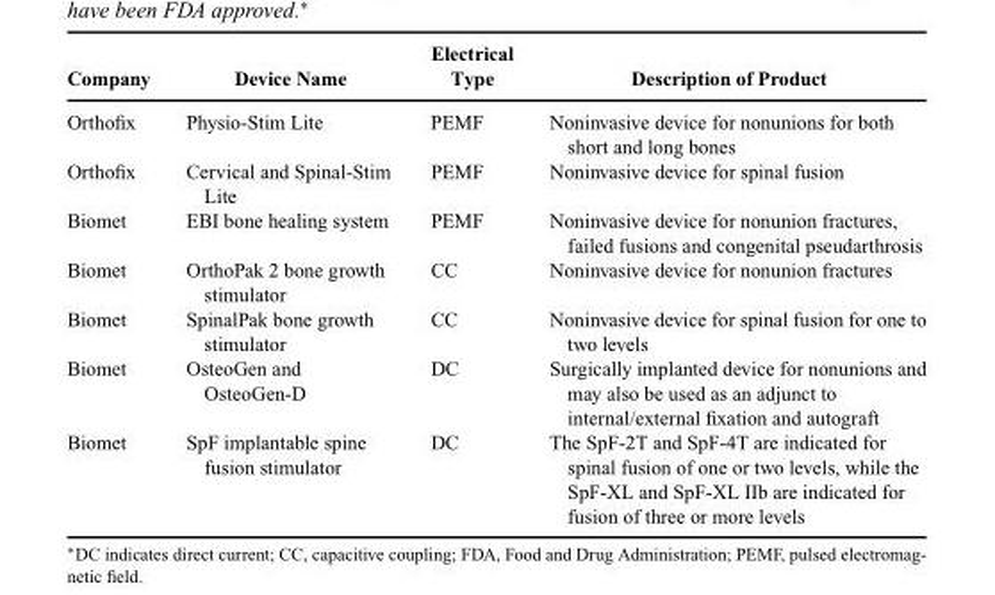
<table><thead><tr><td>Company</td><td>Device Name</td><td>Type</td><td>Description of Product</td></tr></thead><tbody><tr><td>Orthofix</td><td>Physio-Stim Lite</td><td>PEMF</td><td>Noninvasive device for nonunions for both short and long bones</td></tr><tr><td>Orthofix</td><td>Cervical and Spinal-Stim Lite</td><td>PEMF</td><td>Noninvasive device for spinal fusion</td></tr><tr><td>Biomet</td><td>EBI bone healing system</td><td>PEMF</td><td>Noninvasive device for nonunion fractures, failed fusions and congenital pseudarthrosis</td></tr><tr><td>Biomet</td><td>OrthoPak 2 bone growth stimulator</td><td>CC</td><td>Noninvasive device for nonunion fractures</td></tr><tr><td>Biomet</td><td>SpinalPak bone growth stimulator</td><td>CC</td><td>Noninvasive device for spinal fusion for one to two levels</td></tr><tr><td>Biomet</td><td>OsteoGen and OsteoGen-D</td><td>DC</td><td>Surgically implanted device for nonunions and may also be used as an adjunct to internal/external fixation and autograft</td></tr><tr><td>Biomet</td><td>SpF implantable spine fusion stimulator</td><td>DC</td><td>The SpF-2T and SpF-4T are indicated for spinal fusion of one or two levels, while the SpF-XL and SpF-XL IIb are indicated for fusion of three or more levels</td></tr></tbody></table>